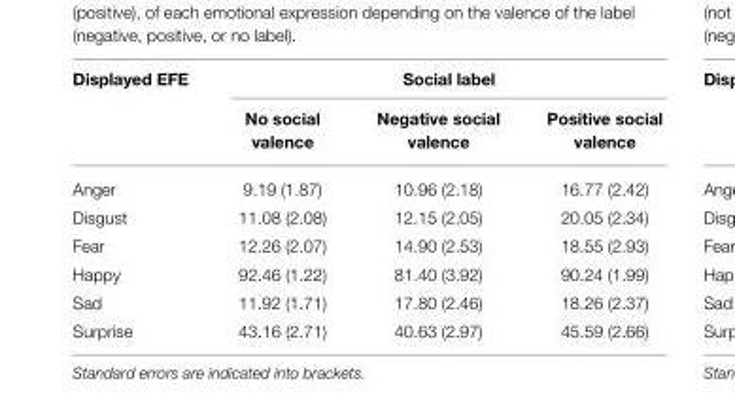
<table><thead><tr><td rowspan="2">Displayed EFE</td><td colspan="3">Social label</td></tr><tr><td>No social valence</td><td>Negative social valence</td><td>Positive social valence</td></tr></thead><tbody><tr><td>Anger</td><td>9.19 (1.87)</td><td>10.96 (2.18)</td><td>16.77 (2.42)</td></tr><tr><td>Disgust</td><td>11.08 (2.08)</td><td>12.15 (2.05)</td><td>20.05 (2.34)</td></tr><tr><td>Fear</td><td>12.26 (2.07)</td><td>14.90 (2.53)</td><td>18.55 (2.93)</td></tr><tr><td>Happy</td><td>92.46 (1.22)</td><td>81.40 (3.92)</td><td>90.24 (1.99)</td></tr><tr><td>Sad</td><td>11.92 (1.71)</td><td>17.80 (2.46)</td><td>18.26 (2.37)</td></tr><tr><td>Surprise</td><td>43.16 (2.71)</td><td>40.63 (2.97)</td><td>45.59 (2.66)</td></tr></tbody></table>